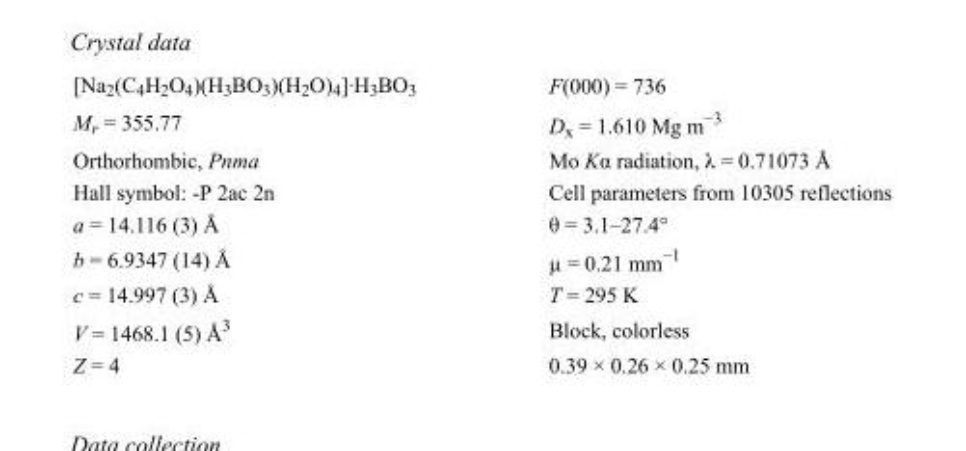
<table><tbody><tr><td>[Na<sub>2</sub>(C<sub>4</sub>H<sub>2</sub>O<sub>4</sub>)(H<sub>3</sub>BO<sub>3</sub>)(H<sub>2</sub>O)<sub>4</sub>]·H<sub>3</sub>BO<sub>3</sub></td><td>F(000) = 736</td></tr><tr><td>M<sub>r</sub> = 355.77</td><td>D<sub>x</sub> = 1.610 Mg m<sup>−3</sup></td></tr><tr><td>Orthorhombic, Pnma</td><td>Mo Kα radiation, λ = 0.71073 Å</td></tr><tr><td>Hall symbol: -P 2ac 2n</td><td>Cell parameters from 10305 reflections</td></tr><tr><td>a = 14.116 (3) Å</td><td>θ = 3.1–27.4°</td></tr><tr><td>b = 6.9347 (14) Å</td><td>µ = 0.21 mm<sup>−1</sup></td></tr><tr><td>c = 14.997 (3) Å</td><td>T = 295 K</td></tr><tr><td>V = 1468.1 (5) Å<sup>3</sup></td><td>Block, colorless</td></tr><tr><td>Z = 4</td><td>0.39 × 0.26 × 0.25 mm</td></tr></tbody></table>